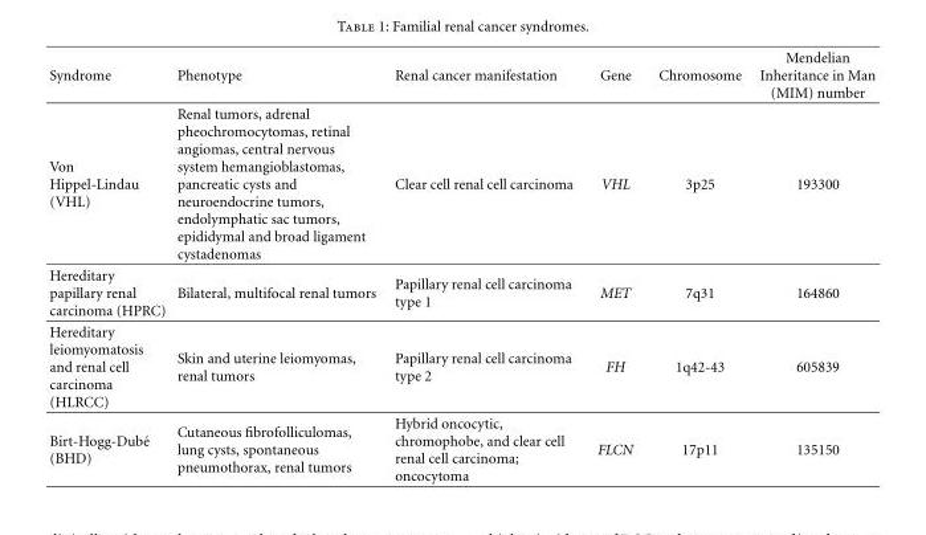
<table><thead><tr><td>Syndrome</td><td>Phenotype</td><td>Renal cancer manifestation</td><td>Gene</td><td>Chromosome</td><td>Mendelian Inheritance in Man (MIM) number</td></tr></thead><tbody><tr><td>Von Hippel-Lindau (VHL)</td><td>Renal tumors, adrenal pheochromocytomas, retinal angiomas, central nervous system hemangioblastomas, pancreatic cysts and neuroendocrine tumors, endolymphatic sac tumors, epididymal and broad ligament cystadenomas</td><td>Clear cell renal cell carcinoma</td><td>VHL</td><td>3p25</td><td>193300</td></tr><tr><td>Hereditary papillary renal carcinoma (HPRC)</td><td>Bilateral, multifocal renal tumors</td><td>Papillary renal cell carcinoma type 1</td><td>MET</td><td>7q31</td><td>164860</td></tr><tr><td>Hereditary leiomyomatosis and renal cell carcinoma (HLRCC)</td><td>Skin and uterine leiomyomas, renal tumors</td><td>Papillary renal cell carcinoma type 2</td><td>FH</td><td>1q42-43</td><td>605839</td></tr><tr><td>Birt-Hogg-Dub´e (BHD)</td><td>Cutaneous fibrofolliculomas, lung cysts, spontaneous pneumothorax, renal tumors</td><td>Hybrid oncocytic, chromophobe, and clear cell renal cell carcinoma; oncocytoma</td><td>FLCN</td><td>17p11</td><td>135150</td></tr></tbody></table>